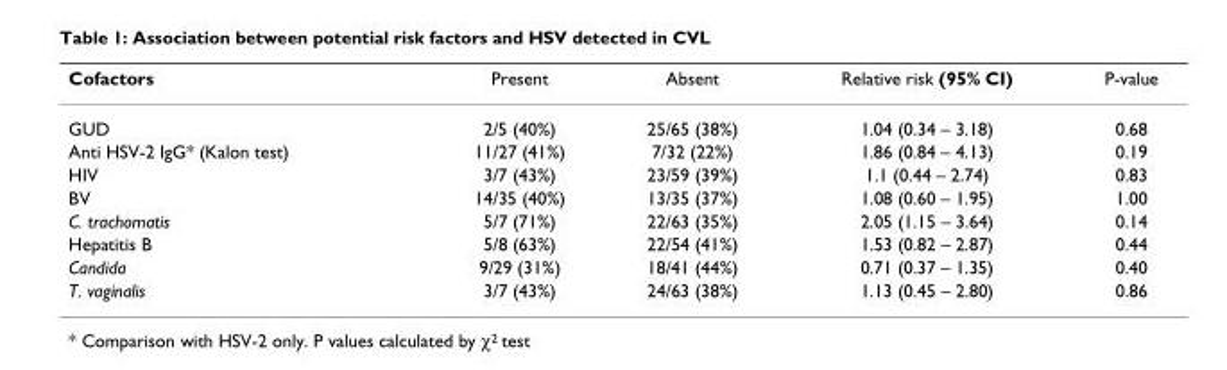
<table><thead><tr><td>Cofactors</td><td>Present</td><td>Absent</td><td>Relative risk (95% CI)</td><td>P-value</td></tr></thead><tbody><tr><td>GUD</td><td>2/5 (40%)</td><td>25/65 (38%)</td><td>1.04 (0.34 – 3.18)</td><td>0.68</td></tr><tr><td>Anti HSV-2 IgG* (Kalon test)</td><td>11/27 (41%)</td><td>7/32 (22%)</td><td>1.86 (0.84 – 4.13)</td><td>0.19</td></tr><tr><td>HIV</td><td>3/7 (43%)</td><td>23/59 (39%)</td><td>1.1 (0.44 – 2.74)</td><td>0.83</td></tr><tr><td>BV</td><td>14/35 (40%)</td><td>13/35 (37%)</td><td>1.08 (0.60 – 1.95)</td><td>1.00</td></tr><tr><td>C. trachomatis</td><td>5/7 (71%)</td><td>22/63 (35%)</td><td>2.05 (1.15 – 3.64)</td><td>0.14</td></tr><tr><td>Hepatitis B</td><td>5/8 (63%)</td><td>22/54 (41%)</td><td>1.53 (0.82 – 2.87)</td><td>0.44</td></tr><tr><td>Candida</td><td>9/29 (31%)</td><td>18/41 (44%)</td><td>0.71 (0.37 – 1.35)</td><td>0.40</td></tr><tr><td>T. vaginalis</td><td>3/7 (43%)</td><td>24/63 (38%)</td><td>1.13 (0.45 – 2.80)</td><td>0.86</td></tr></tbody></table>